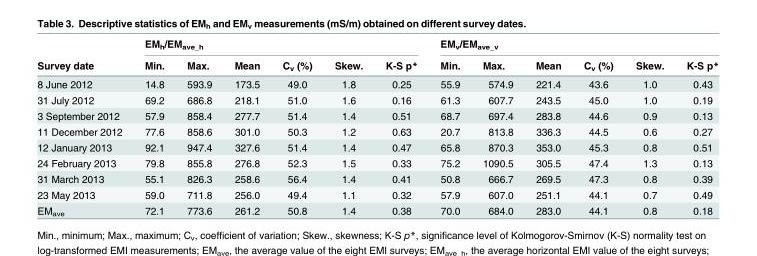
<table><thead><tr><td rowspan="2">Survey date</td><td colspan="6">EM<sub>h</sub>/EM<sub>ave_h</sub></td><td colspan="6">EM<sub>v</sub>/EM<sub>ave_v</sub></td></tr><tr><td>Min.</td><td>Max.</td><td>Mean</td><td>C<sub>v</sub> (%)</td><td>Skew.</td><td>K-S p*</td><td>Min.</td><td>Max.</td><td>Mean</td><td>C<sub>v</sub> (%)</td><td>Skew.</td><td>K-S p*</td></tr></thead><tbody><tr><td>8 June 2012</td><td>14.8</td><td>593.9</td><td>173.5</td><td>49.0</td><td>1.8</td><td>0.25</td><td>55.9</td><td>574.9</td><td>221.4</td><td>43.6</td><td>1.0</td><td>0.43</td></tr><tr><td>31 July 2012</td><td>69.2</td><td>686.8</td><td>218.1</td><td>51.0</td><td>1.6</td><td>0.16</td><td>61.3</td><td>607.7</td><td>243.5</td><td>45.0</td><td>1.0</td><td>0.19</td></tr><tr><td>3 September 2012</td><td>57.9</td><td>858.4</td><td>277.7</td><td>51.4</td><td>1.4</td><td>0.51</td><td>68.7</td><td>697.4</td><td>283.8</td><td>44.6</td><td>0.9</td><td>0.13</td></tr><tr><td>11 December 2012</td><td>77.6</td><td>858.6</td><td>301.0</td><td>50.3</td><td>1.2</td><td>0.63</td><td>20.7</td><td>813.8</td><td>336.3</td><td>44.5</td><td>0.6</td><td>0.27</td></tr><tr><td>12 January 2013</td><td>92.1</td><td>947.4</td><td>327.6</td><td>51.4</td><td>1.4</td><td>0.47</td><td>65.8</td><td>870.3</td><td>353.0</td><td>45.3</td><td>0.8</td><td>0.51</td></tr><tr><td>24 February 2013</td><td>79.8</td><td>855.8</td><td>276.8</td><td>52.3</td><td>1.5</td><td>0.33</td><td>75.2</td><td>1090.5</td><td>305.5</td><td>47.4</td><td>1.3</td><td>0.13</td></tr><tr><td>31 March 2013</td><td>55.1</td><td>826.3</td><td>258.6</td><td>56.4</td><td>1.4</td><td>0.41</td><td>50.8</td><td>666.7</td><td>269.5</td><td>47.3</td><td>0.8</td><td>0.39</td></tr><tr><td>23 May 2013</td><td>59.0</td><td>711.8</td><td>256.0</td><td>49.4</td><td>1.1</td><td>0.32</td><td>57.9</td><td>607.0</td><td>251.1</td><td>44.1</td><td>0.7</td><td>0.49</td></tr><tr><td>EM<sub>ave</sub></td><td>72.1</td><td>773.6</td><td>261.2</td><td>50.8</td><td>1.4</td><td>0.38</td><td>70.0</td><td>684.0</td><td>283.0</td><td>44.1</td><td>0.8</td><td>0.18</td></tr></tbody></table>